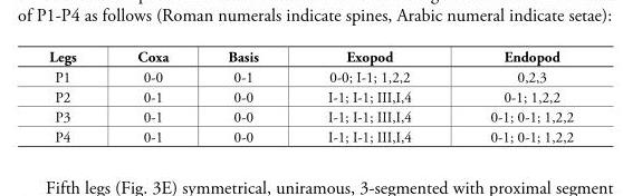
<table><thead><tr><td>Legs</td><td>Coxa</td><td>Basis</td><td>Exopod</td><td>Endopod</td></tr></thead><tbody><tr><td>P1</td><td>0-0</td><td>0-1</td><td>0-0; I-1; 1,2,2</td><td>0,2,3</td></tr><tr><td>P2</td><td>0-1</td><td>0-0</td><td>I-1; I-1; III,I,4</td><td>0-1; 1,2,2</td></tr><tr><td>P3</td><td>0-1</td><td>0-0</td><td>I-1; I-1; III,I,4</td><td>0-1; 0-1; 1,2,2</td></tr><tr><td>P4</td><td>0-1</td><td>0-0</td><td>I-1; I-1; III,I,4</td><td>0-1; 0-1; 1,2,2</td></tr></tbody></table>